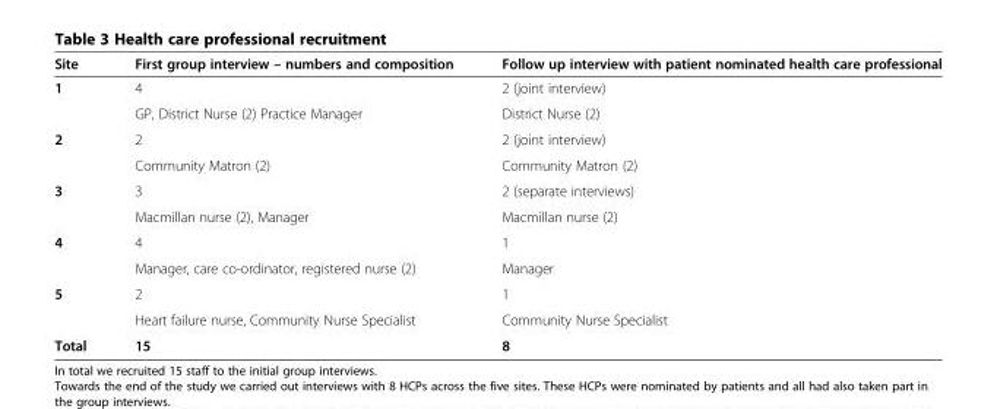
<table><thead><tr><td>Site</td><td>First group interview – numbers and composition</td><td>Follow up interview with patient nominated health care professional</td></tr></thead><tbody><tr><td rowspan="2">1</td><td>4</td><td>2 (joint interview)</td></tr><tr><td>GP, District Nurse (2) Practice Manager</td><td>District Nurse (2)</td></tr><tr><td rowspan="2">2</td><td>2</td><td>2 (joint interview)</td></tr><tr><td>Community Matron (2)</td><td>Community Matron (2)</td></tr><tr><td rowspan="2">3</td><td>3</td><td>2 (separate interviews)</td></tr><tr><td>Macmillan nurse (2), Manager</td><td>Macmillan nurse (2)</td></tr><tr><td rowspan="2">4</td><td>4</td><td>1</td></tr><tr><td>Manager, care co-ordinator, registered nurse (2)</td><td>Manager</td></tr><tr><td rowspan="2">5</td><td>2</td><td>1</td></tr><tr><td>Heart failure nurse, Community Nurse Specialist</td><td>Community Nurse Specialist</td></tr><tr><td>Total</td><td>15</td><td>8</td></tr></tbody></table>